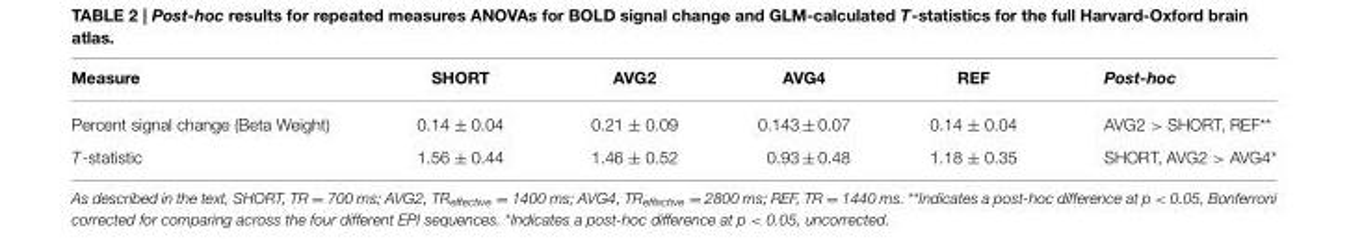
<table><thead><tr><td>Measure</td><td>SHORT</td><td>AVG2</td><td>AVG4</td><td>REF</td><td>Post-hoc</td></tr></thead><tbody><tr><td>Percent signal change (Beta Weight)</td><td>0.14 ± 0.04</td><td>0.21 ± 0.09</td><td>0.143 ± 0.07</td><td>0.14 ± 0.04</td><td>AVG2 &gt; SHORT, REF**</td></tr><tr><td>T-statistic</td><td>1.56 ± 0.44</td><td>1.46 ± 0.52</td><td>0.93 ± 0.48</td><td>1.18 ± 0.35</td><td>SHORT, AVG2 &gt; AVG4*</td></tr></tbody></table>